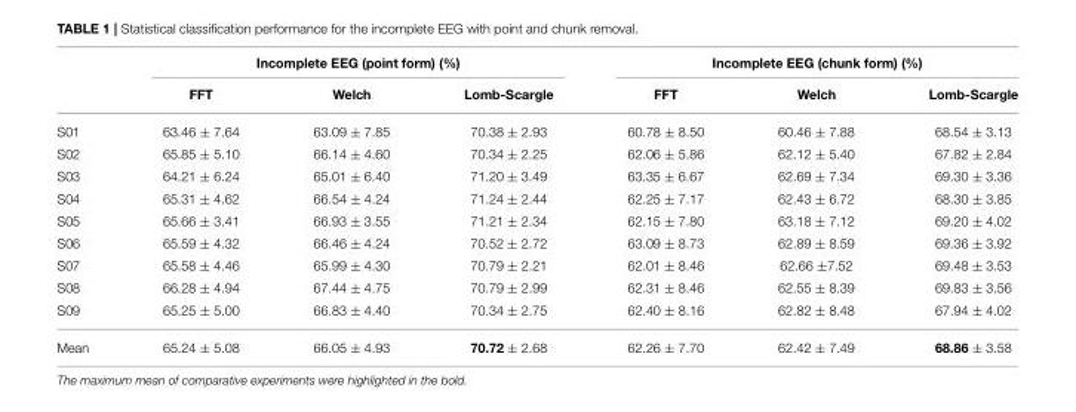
<table><thead><tr><td rowspan="2"></td><td colspan="3">Incomplete EEG (point form) (%)</td><td colspan="3">Incomplete EEG (chunk form) (%)</td></tr><tr><td>FFT</td><td>Welch</td><td>Lomb-Scargle</td><td>FFT</td><td>Welch</td><td>Lomb-Scargle</td></tr></thead><tbody><tr><td>S01</td><td>63.46 ± 7.64</td><td>63.09 ± 7.85</td><td>70.38 ± 2.93</td><td>60.78 ± 8.50</td><td>60.46 ± 7.88</td><td>68.54 ± 3.13</td></tr><tr><td>S02</td><td>65.85 ± 5.10</td><td>66.14 ± 4.60</td><td>70.34 ± 2.25</td><td>62.06 ± 5.86</td><td>62.12 ± 5.40</td><td>67.82 ± 2.84</td></tr><tr><td>S03</td><td>64.21 ± 6.24</td><td>65.01 ± 6.40</td><td>71.20 ± 3.49</td><td>63.35 ± 6.67</td><td>62.69 ± 7.34</td><td>69.30 ± 3.36</td></tr><tr><td>S04</td><td>65.31 ± 4.62</td><td>66.54 ± 4.24</td><td>71.24 ± 2.44</td><td>62.25 ± 7.17</td><td>62.43 ± 6.72</td><td>68.30 ± 3.85</td></tr><tr><td>S05</td><td>65.66 ± 3.41</td><td>66.93 ± 3.55</td><td>71.21 ± 2.34</td><td>62.15 ± 7.80</td><td>63.18 ± 7.12</td><td>69.20 ± 4.02</td></tr><tr><td>S06</td><td>65.59 ± 4.32</td><td>66.46 ± 4.24</td><td>70.52 ± 2.72</td><td>63.09 ± 8.73</td><td>62.89 ± 8.59</td><td>69.36 ± 3.92</td></tr><tr><td>S07</td><td>65.58 ± 4.46</td><td>65.99 ± 4.30</td><td>70.79 ± 2.21</td><td>62.01 ± 8.46</td><td>62.66 ±7.52</td><td>69.48 ± 3.53</td></tr><tr><td>S08</td><td>66.28 ± 4.94</td><td>67.44 ± 4.75</td><td>70.79 ± 2.99</td><td>62.31 ± 8.46</td><td>62.55 ± 8.39</td><td>69.83 ± 3.56</td></tr><tr><td>S09</td><td>65.25 ± 5.00</td><td>66.83 ± 4.40</td><td>70.34 ± 2.75</td><td>62.40 ± 8.16</td><td>62.82 ± 8.48</td><td>67.94 ± 4.02</td></tr><tr><td>Mean</td><td>65.24 ± 5.08</td><td>66.05 ± 4.93</td><td>70.72 ± 2.68</td><td>62.26 ± 7.70</td><td>62.42 ± 7.49</td><td>68.86 ± 3.58</td></tr></tbody></table>